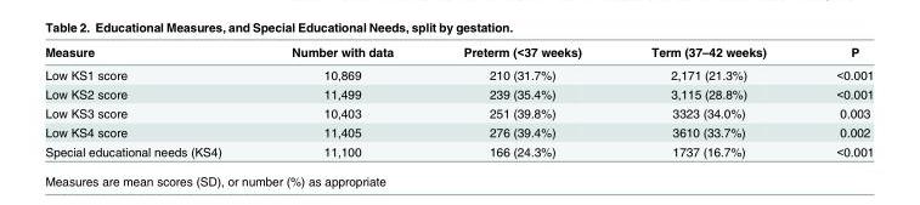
<table><thead><tr><td>Measure</td><td>Number with data</td><td>Preterm (&lt;37 weeks)</td><td>Term (37–42 weeks)</td><td>P</td></tr></thead><tbody><tr><td>Low KS1 score</td><td>10,869</td><td>210 (31.7%)</td><td>2,171 (21.3%)</td><td>&lt;0.001</td></tr><tr><td>Low KS2 score</td><td>11,499</td><td>239 (35.4%)</td><td>3,115 (28.8%)</td><td>&lt;0.001</td></tr><tr><td>Low KS3 score</td><td>10,403</td><td>251 (39.8%)</td><td>3323 (34.0%)</td><td>0.003</td></tr><tr><td>Low KS4 score</td><td>11,405</td><td>276 (39.4%)</td><td>3610 (33.7%)</td><td>0.002</td></tr><tr><td>Special educational needs (KS4)</td><td>11,100</td><td>166 (24.3%)</td><td>1737 (16.7%)</td><td>&lt;0.001</td></tr></tbody></table>